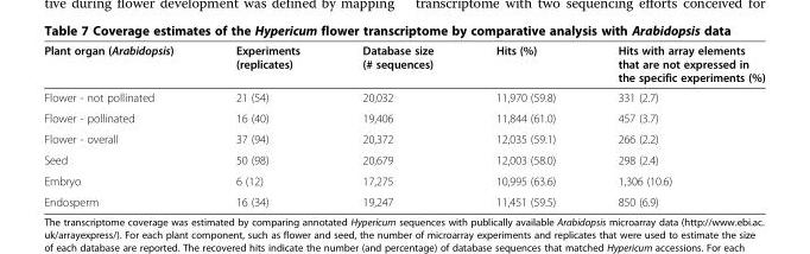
<table><thead><tr><td>Plant organ (Arabidopsis)</td><td>Experiments (replicates)</td><td>Database size (# sequences)</td><td>Hits (%)</td><td>Hits with array elements that are not expressed in the specific experiments (%)</td></tr></thead><tbody><tr><td>Flower - not pollinated</td><td>21 (54)</td><td>20,032</td><td>11,970 (59.8)</td><td>331 (2.7)</td></tr><tr><td>Flower - pollinated</td><td>16 (40)</td><td>19,406</td><td>11,844 (61.0)</td><td>457 (3.7)</td></tr><tr><td>Flower - overall</td><td>37 (94)</td><td>20,372</td><td>12,035 (59.1)</td><td>266 (2.2)</td></tr><tr><td>Seed</td><td>50 (98)</td><td>20,679</td><td>12,003 (58.0)</td><td>298 (2.4)</td></tr><tr><td>Embryo</td><td>6 (12)</td><td>17,275</td><td>10,995 (63.6)</td><td>1,306 (10.6)</td></tr><tr><td>Endosperm</td><td>16 (34)</td><td>19,247</td><td>11,451 (59.5)</td><td>850 (6.9)</td></tr></tbody></table>